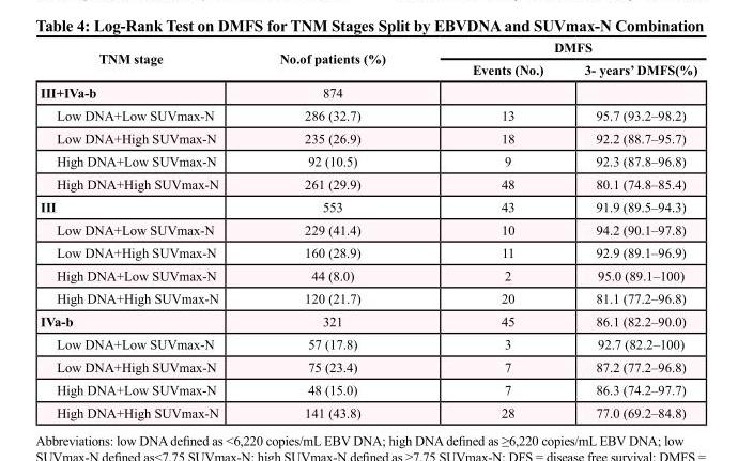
<table><thead><tr><td rowspan="2">TNM stage</td><td rowspan="2">No.of patients (%)</td><td colspan="2">DMFS</td></tr><tr><td>Events (No.)</td><td>3- years’ DMFS(%)</td></tr></thead><tbody><tr><td>III+IVa-b</td><td>874</td><td></td><td></td></tr><tr><td>Low DNA+Low SUVmax-N</td><td>286 (32.7)</td><td>13</td><td>95.7 (93.2–98.2)</td></tr><tr><td>Low DNA+High SUVmax-N</td><td>235 (26.9)</td><td>18</td><td>92.2 (88.7–95.7)</td></tr><tr><td>High DNA+Low SUVmax-N</td><td>92 (10.5)</td><td>9</td><td>92.3 (87.8–96.8)</td></tr><tr><td>High DNA+High SUVmax-N</td><td>261 (29.9)</td><td>48</td><td>80.1 (74.8–85.4)</td></tr><tr><td>III</td><td>553</td><td>43</td><td>91.9 (89.5–94.3)</td></tr><tr><td>Low DNA+Low SUVmax-N</td><td>229 (41.4)</td><td>10</td><td>94.2 (90.1–97.8)</td></tr><tr><td>Low DNA+High SUVmax-N</td><td>160 (28.9)</td><td>11</td><td>92.9 (89.1–96.9)</td></tr><tr><td>High DNA+Low SUVmax-N</td><td>44 (8.0)</td><td>2</td><td>95.0 (89.1–100)</td></tr><tr><td>High DNA+High SUVmax-N</td><td>120 (21.7)</td><td>20</td><td>81.1 (77.2–96.8)</td></tr><tr><td>IVa-b</td><td>321</td><td>45</td><td>86.1 (82.2–90.0)</td></tr><tr><td>Low DNA+Low SUVmax-N</td><td>57 (17.8)</td><td>3</td><td>92.7 (82.2–100)</td></tr><tr><td>Low DNA+High SUVmax-N</td><td>75 (23.4)</td><td>7</td><td>87.2 (77.2–96.8)</td></tr><tr><td>High DNA+Low SUVmax-N</td><td>48 (15.0)</td><td>7</td><td>86.3 (74.2–97.7)</td></tr><tr><td>High DNA+High SUVmax-N</td><td>141 (43.8)</td><td>28</td><td>77.0 (69.2–84.8)</td></tr></tbody></table>